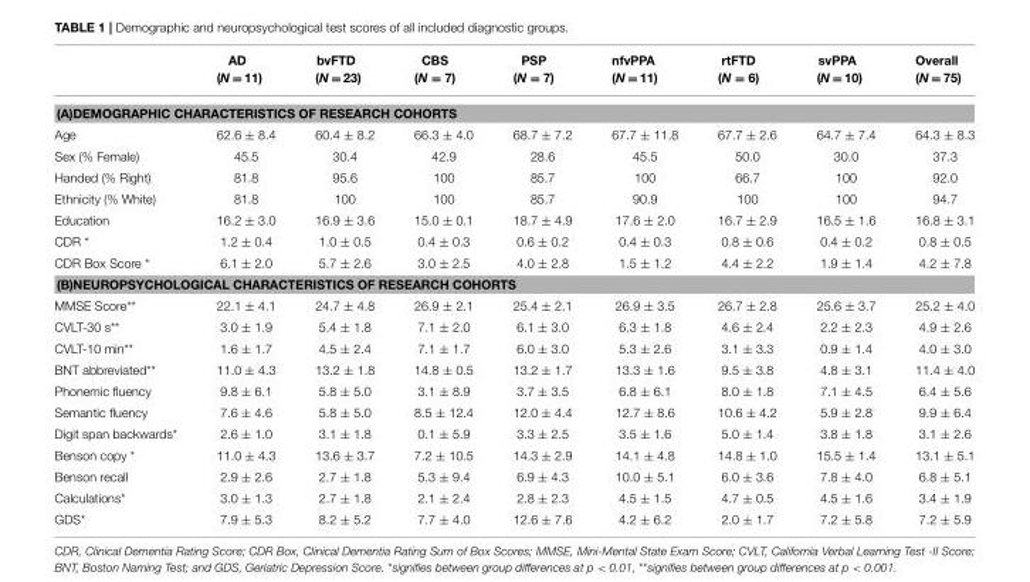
<table><thead><tr><td></td><td>AD (N = 11)</td><td>bvFTD (N = 23)</td><td>CBS (N = 7)</td><td>PSP (N = 7)</td><td>nfvPPA (N = 11)</td><td>rtFTD (N = 6)</td><td>svPPA (N = 10)</td><td>Overall (N = 75)</td></tr></thead><tbody><tr><td colspan="9">(A)DEMOGRAPHIC CHARACTERISTICS OF RESEARCH COHORTS</td></tr><tr><td>Age</td><td>62.6 ± 8.4</td><td>60.4 ± 8.2</td><td>66.3 ± 4.0</td><td>68.7 ± 7.2</td><td>67.7 ± 11.8</td><td>67.7 ± 2.6</td><td>64.7 ± 7.4</td><td>64.3 ± 8.3</td></tr><tr><td>Sex (% Female)</td><td>45.5</td><td>30.4</td><td>42.9</td><td>28.6</td><td>45.5</td><td>50.0</td><td>30.0</td><td>37.3</td></tr><tr><td>Handed (% Right)</td><td>81.8</td><td>95.6</td><td>100</td><td>85.7</td><td>100</td><td>66.7</td><td>100</td><td>92.0</td></tr><tr><td>Ethnicity (% White)</td><td>81.8</td><td>100</td><td>100</td><td>85.7</td><td>90.9</td><td>100</td><td>100</td><td>94.7</td></tr><tr><td>Education</td><td>16.2 ± 3.0</td><td>16.9 ± 3.6</td><td>15.0 ± 0.1</td><td>18.7 ± 4.9</td><td>17.6 ± 2.0</td><td>16.7 ± 2.9</td><td>16.5 ± 1.6</td><td>16.8 ± 3.1</td></tr><tr><td>CDR *</td><td>1.2 ± 0.4</td><td>1.0 ± 0.5</td><td>0.4 ± 0.3</td><td>0.6 ± 0.2</td><td>0.4 ± 0.3</td><td>0.8 ± 0.6</td><td>0.4 ± 0.2</td><td>0.8 ± 0.5</td></tr><tr><td>CDR Box Score *</td><td>6.1 ± 2.0</td><td>5.7 ± 2.6</td><td>3.0 ± 2.5</td><td>4.0 ± 2.8</td><td>1.5 ± 1.2</td><td>4.4 ± 2.2</td><td>1.9 ± 1.4</td><td>4.2 ± 7.8</td></tr><tr><td colspan="9">(B)NEUROPSYCHOLOGICAL CHARACTERISTICS OF RESEARCH COHORTS</td></tr><tr><td>MMSE Score**</td><td>22.1 ± 4.1</td><td>24.7 ± 4.8</td><td>26.9 ± 2.1</td><td>25.4 ± 2.1</td><td>26.9 ± 3.5</td><td>26.7 ± 2.8</td><td>25.6 ± 3.7</td><td>25.2 ± 4.0</td></tr><tr><td>CVLT-30 s**</td><td>3.0 ± 1.9</td><td>5.4 ± 1.8</td><td>7.1 ± 2.0</td><td>6.1 ± 3.0</td><td>6.3 ± 1.8</td><td>4.6 ± 2.4</td><td>2.2 ± 2.3</td><td>4.9 ± 2.6</td></tr><tr><td>CVLT-10 min**</td><td>1.6 ± 1.7</td><td>4.5 ± 2.4</td><td>7.1 ± 1.7</td><td>6.0 ± 3.0</td><td>5.3 ± 2.6</td><td>3.1 ± 3.3</td><td>0.9 ± 1.4</td><td>4.0 ± 3.0</td></tr><tr><td>BNT abbreviated**</td><td>11.0 ± 4.3</td><td>13.2 ± 1.8</td><td>14.8 ± 0.5</td><td>13.2 ± 1.7</td><td>13.3 ± 1.6</td><td>9.5 ± 3.8</td><td>4.8 ± 3.1</td><td>11.4 ± 4.0</td></tr><tr><td>Phonemic fluency</td><td>9.8 ± 6.1</td><td>5.8 ± 5.0</td><td>3.1 ± 8.9</td><td>3.7 ± 3.5</td><td>6.8 ± 6.1</td><td>8.0 ± 1.8</td><td>7.1 ± 4.5</td><td>6.4 ± 5.6</td></tr><tr><td>Semantic fluency</td><td>7.6 ± 4.6</td><td>5.8 ± 5.0</td><td>8.5 ± 12.4</td><td>12.0 ± 4.4</td><td>12.7 ± 8.6</td><td>10.6 ± 4.2</td><td>5.9 ± 2.8</td><td>9.9 ± 6.4</td></tr><tr><td>Digit span backwards*</td><td>2.6 ± 1.0</td><td>3.1 ± 1.8</td><td>0.1 ± 5.9</td><td>3.3 ± 2.5</td><td>3.5 ± 1.6</td><td>5.0 ± 1.4</td><td>3.8 ± 1.8</td><td>3.1 ± 2.6</td></tr><tr><td>Benson copy *</td><td>11.0 ± 4.3</td><td>13.6 ± 3.7</td><td>7.2 ± 10.5</td><td>14.3 ± 2.9</td><td>14.1 ± 4.8</td><td>14.8 ± 1.0</td><td>15.5 ± 1.4</td><td>13.1 ± 5.1</td></tr><tr><td>Benson recall</td><td>2.9 ± 2.6</td><td>2.7 ± 1.8</td><td>5.3 ± 9.4</td><td>6.9 ± 4.3</td><td>10.0 ± 5.1</td><td>6.0 ± 3.6</td><td>7.8 ± 4.0</td><td>6.8 ± 5.1</td></tr><tr><td>Calculations*</td><td>3.0 ± 1.3</td><td>2.7 ± 1.8</td><td>2.1 ± 2.4</td><td>2.8 ± 2.3</td><td>4.5 ± 1.5</td><td>4.7 ± 0.5</td><td>4.5 ± 1.6</td><td>3.4 ± 1.9</td></tr><tr><td>GDS*</td><td>7.9 ± 5.3</td><td>8.2 ± 5.2</td><td>7.7 ± 4.0</td><td>12.6 ± 7.6</td><td>4.2 ± 6.2</td><td>2.0 ± 1.7</td><td>7.2 ± 5.8</td><td>7.2 ± 5.9</td></tr></tbody></table>